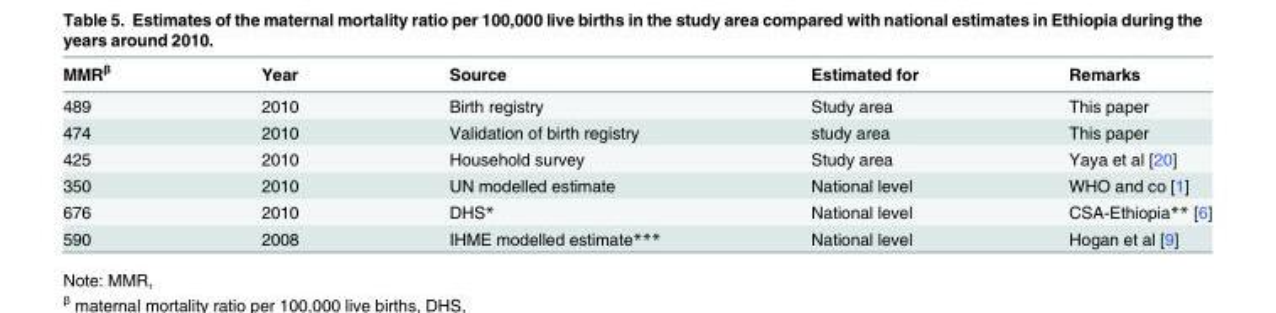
<table><thead><tr><td>MMR<sup>β</sup></td><td>Year</td><td>Source</td><td>Estimated for</td><td>Remarks</td></tr></thead><tbody><tr><td>489</td><td>2010</td><td>Birth registry</td><td>Study area</td><td>This paper</td></tr><tr><td>474</td><td>2010</td><td>Validation of birth registry</td><td>study area</td><td>This paper</td></tr><tr><td>425</td><td>2010</td><td>Household survey</td><td>Study area</td><td>Yaya et al [20]</td></tr><tr><td>350</td><td>2010</td><td>UN modelled estimate</td><td>National level</td><td>WHO and co [1]</td></tr><tr><td>676</td><td>2010</td><td>DHS*</td><td>National level</td><td>CSA-Ethiopia** [6]</td></tr><tr><td>590</td><td>2008</td><td>IHME modelled estimate***</td><td>National level</td><td>Hogan et al [9]</td></tr></tbody></table>